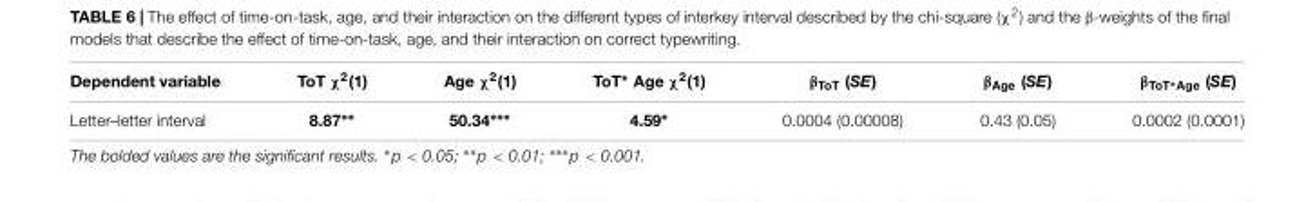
<table><thead><tr><td>Dependent variable</td><td>ToT χ<sup>2</sup>(1)</td><td>Age χ<sup>2</sup>(1)</td><td>ToT∗ Age χ<sup>2</sup>(1)</td><td>β<sub>ToT</sub> (SE)</td><td>β<sub>Age</sub> (SE)</td><td>β<sub>ToT∗Age</sub> (SE)</td></tr></thead><tbody><tr><td>Letter–letter interval</td><td>8.87∗∗</td><td>50.34∗∗∗</td><td>4.59∗</td><td>0.0004 (0.00008)</td><td>0.43 (0.05)</td><td>0.0002 (0.0001)</td></tr></tbody></table>